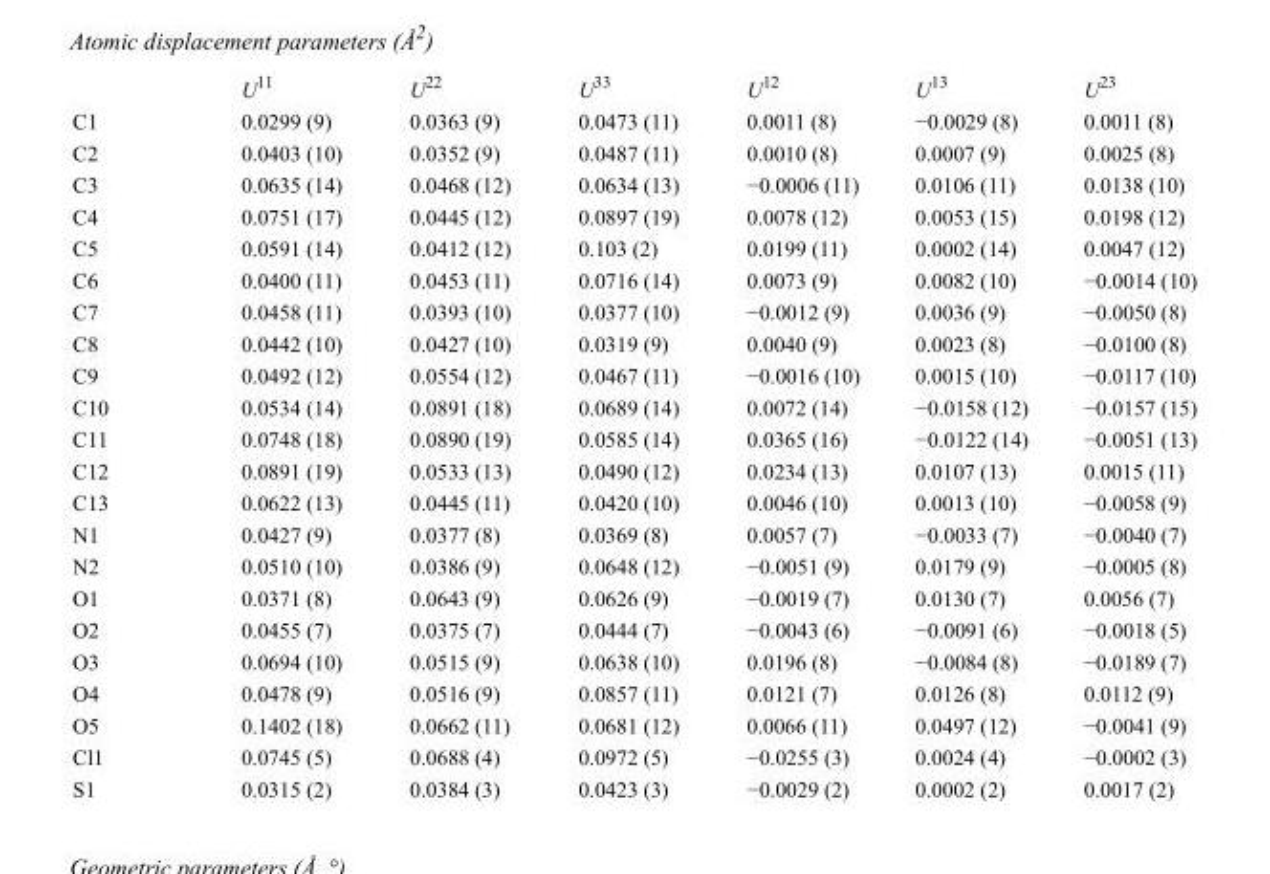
<table><thead><tr><td></td><td>U<sup>11</sup></td><td>U<sup>22</sup></td><td>U<sup>33</sup></td><td>U<sup>12</sup></td><td>U<sup>13</sup></td><td>U<sup>23</sup></td></tr></thead><tbody><tr><td>C1</td><td>0.0299 (9)</td><td>0.0363 (9)</td><td>0.0473 (11)</td><td>0.0011 (8)</td><td>−0.0029 (8)</td><td>0.0011 (8)</td></tr><tr><td>C2</td><td>0.0403 (10)</td><td>0.0352 (9)</td><td>0.0487 (11)</td><td>0.0010 (8)</td><td>0.0007 (9)</td><td>0.0025 (8)</td></tr><tr><td>C3</td><td>0.0635 (14)</td><td>0.0468 (12)</td><td>0.0634 (13)</td><td>−0.0006 (11)</td><td>0.0106 (11)</td><td>0.0138 (10)</td></tr><tr><td>C4</td><td>0.0751 (17)</td><td>0.0445 (12)</td><td>0.0897 (19)</td><td>0.0078 (12)</td><td>0.0053 (15)</td><td>0.0198 (12)</td></tr><tr><td>C5</td><td>0.0591 (14)</td><td>0.0412 (12)</td><td>0.103 (2)</td><td>0.0199 (11)</td><td>0.0002 (14)</td><td>0.0047 (12)</td></tr><tr><td>C6</td><td>0.0400 (11)</td><td>0.0453 (11)</td><td>0.0716 (14)</td><td>0.0073 (9)</td><td>0.0082 (10)</td><td>−0.0014 (10)</td></tr><tr><td>C7</td><td>0.0458 (11)</td><td>0.0393 (10)</td><td>0.0377 (10)</td><td>−0.0012 (9)</td><td>0.0036 (9)</td><td>−0.0050 (8)</td></tr><tr><td>C8</td><td>0.0442 (10)</td><td>0.0427 (10)</td><td>0.0319 (9)</td><td>0.0040 (9)</td><td>0.0023 (8)</td><td>−0.0100 (8)</td></tr><tr><td>C9</td><td>0.0492 (12)</td><td>0.0554 (12)</td><td>0.0467 (11)</td><td>−0.0016 (10)</td><td>0.0015 (10)</td><td>−0.0117 (10)</td></tr><tr><td>C10</td><td>0.0534 (14)</td><td>0.0891 (18)</td><td>0.0689 (14)</td><td>0.0072 (14)</td><td>−0.0158 (12)</td><td>−0.0157 (15)</td></tr><tr><td>C11</td><td>0.0748 (18)</td><td>0.0890 (19)</td><td>0.0585 (14)</td><td>0.0365 (16)</td><td>−0.0122 (14)</td><td>−0.0051 (13)</td></tr><tr><td>C12</td><td>0.0891 (19)</td><td>0.0533 (13)</td><td>0.0490 (12)</td><td>0.0234 (13)</td><td>0.0107 (13)</td><td>0.0015 (11)</td></tr><tr><td>C13</td><td>0.0622 (13)</td><td>0.0445 (11)</td><td>0.0420 (10)</td><td>0.0046 (10)</td><td>0.0013 (10)</td><td>−0.0058 (9)</td></tr><tr><td>N1</td><td>0.0427 (9)</td><td>0.0377 (8)</td><td>0.0369 (8)</td><td>0.0057 (7)</td><td>−0.0033 (7)</td><td>−0.0040 (7)</td></tr><tr><td>N2</td><td>0.0510 (10)</td><td>0.0386 (9)</td><td>0.0648 (12)</td><td>−0.0051 (9)</td><td>0.0179 (9)</td><td>−0.0005 (8)</td></tr><tr><td>O1</td><td>0.0371 (8)</td><td>0.0643 (9)</td><td>0.0626 (9)</td><td>−0.0019 (7)</td><td>0.0130 (7)</td><td>0.0056 (7)</td></tr><tr><td>O2</td><td>0.0455 (7)</td><td>0.0375 (7)</td><td>0.0444 (7)</td><td>−0.0043 (6)</td><td>−0.0091 (6)</td><td>−0.0018 (5)</td></tr><tr><td>O3</td><td>0.0694 (10)</td><td>0.0515 (9)</td><td>0.0638 (10)</td><td>0.0196 (8)</td><td>−0.0084 (8)</td><td>−0.0189 (7)</td></tr><tr><td>O4</td><td>0.0478 (9)</td><td>0.0516 (9)</td><td>0.0857 (11)</td><td>0.0121 (7)</td><td>0.0126 (8)</td><td>0.0112 (9)</td></tr><tr><td>O5</td><td>0.1402 (18)</td><td>0.0662 (11)</td><td>0.0681 (12)</td><td>0.0066 (11)</td><td>0.0497 (12)</td><td>−0.0041 (9)</td></tr><tr><td>Cl1</td><td>0.0745 (5)</td><td>0.0688 (4)</td><td>0.0972 (5)</td><td>−0.0255 (3)</td><td>0.0024 (4)</td><td>−0.0002 (3)</td></tr><tr><td>S1</td><td>0.0315 (2)</td><td>0.0384 (3)</td><td>0.0423 (3)</td><td>−0.0029 (2)</td><td>0.0002 (2)</td><td>0.0017 (2)</td></tr></tbody></table>